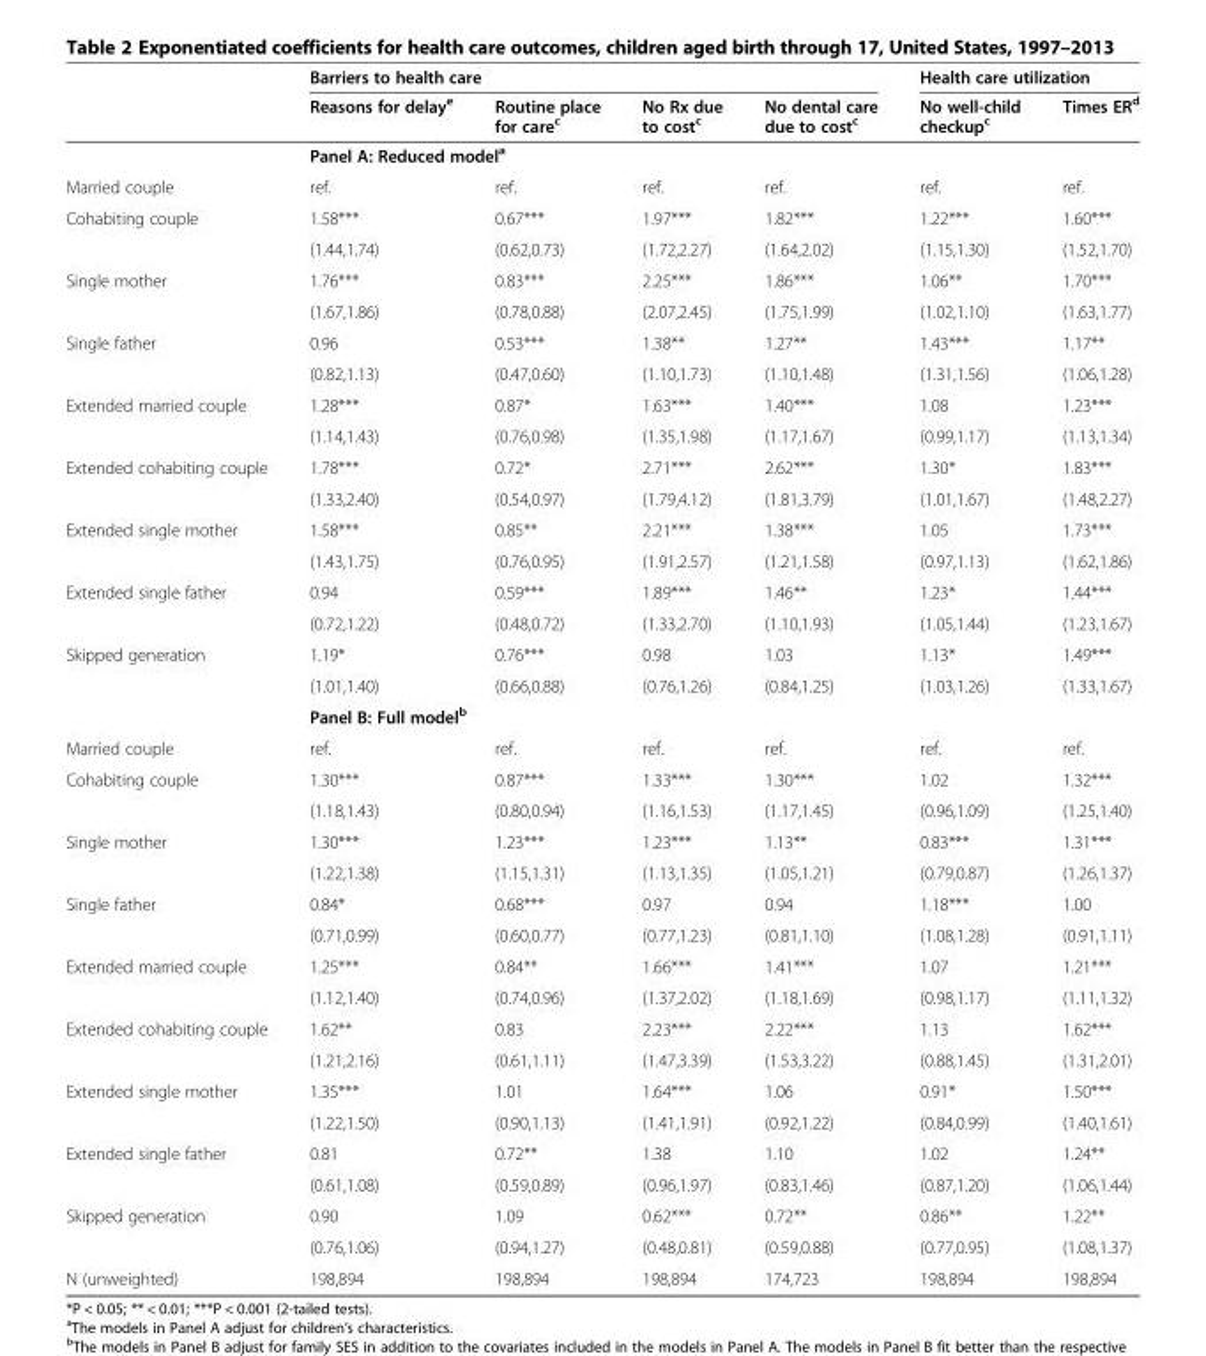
<table><thead><tr><td rowspan="2"></td><td colspan="4">Barriers to health care</td><td colspan="2">Health care utilization</td></tr><tr><td>Reasons for delay<sup>e</sup></td><td>Routine place for care<sup>c</sup></td><td>No Rx due to cost<sup>c</sup></td><td>No dental care due to cost<sup>c</sup></td><td>No well-child checkup<sup>c</sup></td><td>Times ER<sup>d</sup></td></tr></thead><tbody><tr><td></td><td colspan="4">Panel A: Reduced model<sup>a</sup></td><td colspan="2"></td></tr><tr><td>Married couple</td><td>ref.</td><td>ref.</td><td>ref.</td><td>ref.</td><td>ref.</td><td>ref.</td></tr><tr><td rowspan="2">Cohabiting couple</td><td>1.58***</td><td>0.67***</td><td>1.97***</td><td>1.82***</td><td>1.22***</td><td>1.60***</td></tr><tr><td>(1.44,1.74)</td><td>(0.62,0.73)</td><td>(1.72,2.27)</td><td>(1.64,2.02)</td><td>(1.15,1.30)</td><td>(1.52,1.70)</td></tr><tr><td rowspan="2">Single mother</td><td>1.76***</td><td>0.83***</td><td>2.25***</td><td>1.86***</td><td>1.06**</td><td>1.70***</td></tr><tr><td>(1.67,1.86)</td><td>(0.78,0.88)</td><td>(2.07,2.45)</td><td>(1.75,1.99)</td><td>(1.02,1.10)</td><td>(1.63,1.77)</td></tr><tr><td rowspan="2">Single father</td><td>0.96</td><td>0.53***</td><td>1.38**</td><td>1.27**</td><td>1.43***</td><td>1.17**</td></tr><tr><td>(0.82,1.13)</td><td>(0.47,0.60)</td><td>(1.10,1.73)</td><td>(1.10,1.48)</td><td>(1.31,1.56)</td><td>(1.06,1.28)</td></tr><tr><td rowspan="2">Extended married couple</td><td>1.28***</td><td>0.87*</td><td>1.63***</td><td>1.40***</td><td>1.08</td><td>1.23***</td></tr><tr><td>(1.14,1.43)</td><td>(0.76,0.98)</td><td>(1.35,1.98)</td><td>(1.17,1.67)</td><td>(0.99,1.17)</td><td>(1.13,1.34)</td></tr><tr><td rowspan="2">Extended cohabiting couple</td><td>1.78***</td><td>0.72*</td><td>2.71***</td><td>2.62***</td><td>1.30*</td><td>1.83***</td></tr><tr><td>(1.33,2.40)</td><td>(0.54,0.97)</td><td>(1.79,4.12)</td><td>(1.81,3.79)</td><td>(1.01,1.67)</td><td>(1.48,2.27)</td></tr><tr><td rowspan="2">Extended single mother</td><td>1.58***</td><td>0.85**</td><td>2.21***</td><td>1.38***</td><td>1.05</td><td>1.73***</td></tr><tr><td>(1.43,1.75)</td><td>(0.76,0.95)</td><td>(1.91,2.57)</td><td>(1.21,1.58)</td><td>(0.97,1.13)</td><td>(1.62,1.86)</td></tr><tr><td rowspan="2">Extended single father</td><td>0.94</td><td>0.59***</td><td>1.89***</td><td>1.46**</td><td>1.23*</td><td>1.44***</td></tr><tr><td>(0.72,1.22)</td><td>(0.48,0.72)</td><td>(1.33,2.70)</td><td>(1.10,1.93)</td><td>(1.05,1.44)</td><td>(1.23,1.67)</td></tr><tr><td rowspan="3">Skipped generation</td><td>1.19*</td><td>0.76***</td><td>0.98</td><td>1.03</td><td>1.13*</td><td>1.49***</td></tr><tr><td>(1.01,1.40)</td><td>(0.66,0.88)</td><td>(0.76,1.26)</td><td>(0.84,1.25)</td><td>(1.03,1.26)</td><td>(1.33,1.67)</td></tr><tr><td colspan="4">Panel B: Full model<sup>b</sup></td><td colspan="2"></td></tr><tr><td>Married couple</td><td>ref.</td><td>ref.</td><td>ref.</td><td>ref.</td><td>ref.</td><td>ref.</td></tr><tr><td rowspan="2">Cohabiting couple</td><td>1.30***</td><td>0.87***</td><td>1.33***</td><td>1.30***</td><td>1.02</td><td>1.32***</td></tr><tr><td>(1.18,1.43)</td><td>(0.80,0.94)</td><td>(1.16,1.53)</td><td>(1.17,1.45)</td><td>(0.96,1.09)</td><td>(1.25,1.40)</td></tr><tr><td rowspan="2">Single mother</td><td>1.30***</td><td>1.23***</td><td>1.23***</td><td>1.13**</td><td>0.83***</td><td>1.31***</td></tr><tr><td>(1.22,1.38)</td><td>(1.15,1.31)</td><td>(1.13,1.35)</td><td>(1.05,1.21)</td><td>(0.79,0.87)</td><td>(1.26,1.37)</td></tr><tr><td rowspan="2">Single father</td><td>0.84*</td><td>0.68***</td><td>0.97</td><td>0.94</td><td>1.18***</td><td>1.00</td></tr><tr><td>(0.71,0.99)</td><td>(0.60,0.77)</td><td>(0.77,1.23)</td><td>(0.81,1.10)</td><td>(1.08,1.28)</td><td>(0.91,1.11)</td></tr><tr><td rowspan="2">Extended married couple</td><td>1.25***</td><td>0.84**</td><td>1.66***</td><td>1.41***</td><td>1.07</td><td>1.21***</td></tr><tr><td>(1.12,1.40)</td><td>(0.74,0.96)</td><td>(1.37,2.02)</td><td>(1.18,1.69)</td><td>(0.98,1.17)</td><td>(1.11,1.32)</td></tr><tr><td rowspan="2">Extended cohabiting couple</td><td>1.62**</td><td>0.83</td><td>2.23***</td><td>2.22***</td><td>1.13</td><td>1.62***</td></tr><tr><td>(1.21,2.16)</td><td>(0.61,1.11)</td><td>(1.47,3.39)</td><td>(1.53,3.22)</td><td>(0.88,1.45)</td><td>(1.31,2.01)</td></tr><tr><td rowspan="2">Extended single mother</td><td>1.35***</td><td>1.01</td><td>1.64***</td><td>1.06</td><td>0.91*</td><td>1.50***</td></tr><tr><td>(1.22,1.50)</td><td>(0.90,1.13)</td><td>(1.41,1.91)</td><td>(0.92,1.22)</td><td>(0.84,0.99)</td><td>(1.40,1.61)</td></tr><tr><td rowspan="2">Extended single father</td><td>0.81</td><td>0.72**</td><td>1.38</td><td>1.10</td><td>1.02</td><td>1.24**</td></tr><tr><td>(0.61,1.08)</td><td>(0.59,0.89)</td><td>(0.96,1.97)</td><td>(0.83,1.46)</td><td>(0.87,1.20)</td><td>(1.06,1.44)</td></tr><tr><td rowspan="2">Skipped generation</td><td>0.90</td><td>1.09</td><td>0.62***</td><td>0.72**</td><td>0.86**</td><td>1.22**</td></tr><tr><td>(0.76,1.06)</td><td>(0.94,1.27)</td><td>(0.48,0.81)</td><td>(0.59,0.88)</td><td>(0.77,0.95)</td><td>(1.08,1.37)</td></tr><tr><td>N (unweighted)</td><td>198,894</td><td>198,894</td><td>198,894</td><td>174,723</td><td>198,894</td><td>198,894</td></tr></tbody></table>